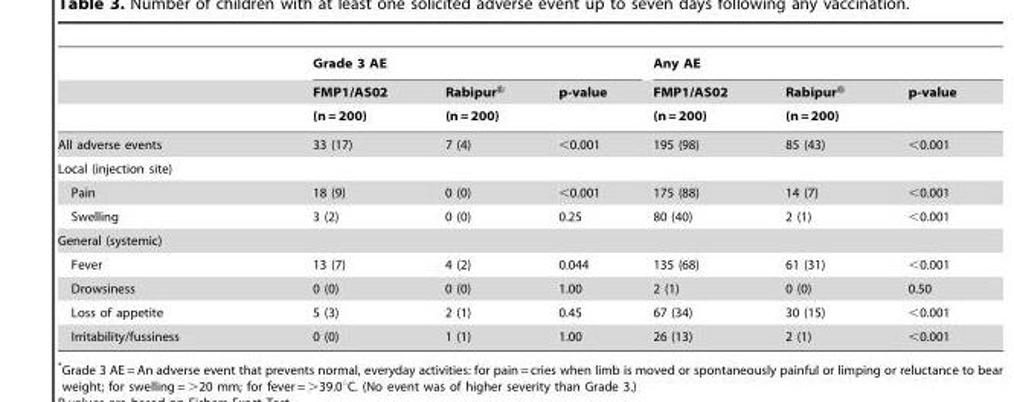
<table><thead><tr><td rowspan="3"></td><td colspan="3">Grade 3 AE</td><td colspan="3">Any AE</td></tr><tr><td rowspan="2">FMP1/AS02 (n = 200)</td><td rowspan="2">Rabipur® (n = 200)</td><td rowspan="2">p-value</td><td rowspan="2">FMP1/AS02 (n = 200)</td><td rowspan="2">Rabipur® (n = 200)</td><td rowspan="2">p-value</td></tr><tr></tr></thead><tbody><tr><td>All adverse events</td><td>33 (17)</td><td>7 (4)</td><td>&lt;0.001</td><td>195 (98)</td><td>85 (43)</td><td>&lt;0.001</td></tr><tr><td colspan="7">Local (injection site)</td></tr><tr><td>Pain</td><td>18 (9)</td><td>0 (0)</td><td>&lt;0.001</td><td>175 (88)</td><td>14 (7)</td><td>&lt;0.001</td></tr><tr><td>Swelling</td><td>3 (2)</td><td>0 (0)</td><td>0.25</td><td>80 (40)</td><td>2 (1)</td><td>&lt;0.001</td></tr><tr><td colspan="7">General (systemic)</td></tr><tr><td>Fever</td><td>13 (7)</td><td>4 (2)</td><td>0.044</td><td>135 (68)</td><td>61 (31)</td><td>&lt;0.001</td></tr><tr><td>Drowsiness</td><td>0 (0)</td><td>0 (0)</td><td>1.00</td><td>2 (1)</td><td>0 (0)</td><td>0.50</td></tr><tr><td>Loss of appetite</td><td>5 (3)</td><td>2 (1)</td><td>0.45</td><td>67 (34)</td><td>30 (15)</td><td>&lt;0.001</td></tr><tr><td>Irritability/fussiness</td><td>0 (0)</td><td>1 (1)</td><td>1.00</td><td>26 (13)</td><td>2 (1)</td><td>&lt;0.001</td></tr></tbody></table>